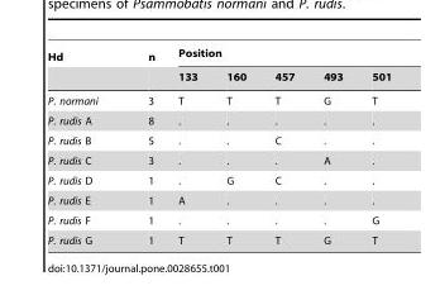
<table><thead><tr><td rowspan="2">Hd</td><td rowspan="2">n</td><td colspan="5">Position</td></tr><tr><td>133</td><td>160</td><td>457</td><td>493</td><td>501</td></tr></thead><tbody><tr><td>P. normani</td><td>3</td><td>T</td><td>T</td><td>T</td><td>G</td><td>T</td></tr><tr><td>P. rudis A</td><td>8</td><td>.</td><td>.</td><td>.</td><td>.</td><td>.</td></tr><tr><td>P. rudis B</td><td>5</td><td>.</td><td>.</td><td>C</td><td>.</td><td>.</td></tr><tr><td>P. rudis C</td><td>3</td><td>.</td><td>.</td><td>.</td><td>A</td><td>.</td></tr><tr><td>P. rudis D</td><td>1</td><td>.</td><td>G</td><td>C</td><td>.</td><td>.</td></tr><tr><td>P. rudis E</td><td>1</td><td>A</td><td>.</td><td>.</td><td>.</td><td>.</td></tr><tr><td>P. rudis F</td><td>1</td><td>.</td><td>.</td><td>.</td><td>.</td><td>G</td></tr><tr><td>P. rudis G</td><td>1</td><td>T</td><td>T</td><td>T</td><td>G</td><td>T</td></tr></tbody></table>